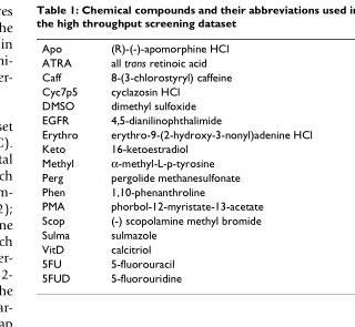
<table><tbody><tr><td>Apo</td><td>(R)-(-)-apomorphine HCl</td></tr><tr><td>ATRA</td><td>all trans retinoic acid</td></tr><tr><td>Caff</td><td>8-(3-chlorostyryl) caffeine</td></tr><tr><td>Cyc7p5</td><td>cyclazosin HCl</td></tr><tr><td>DMSO</td><td>dimethyl sulfoxide</td></tr><tr><td>EGFR</td><td>4,5-dianilinophthalimide</td></tr><tr><td>Erythro</td><td>erythro-9-(2-hydroxy-3-nonyl)adenine HCl</td></tr><tr><td>Keto</td><td>16-ketoestradiol</td></tr><tr><td>Methyl</td><td>α-methyl-L-p-tyrosine</td></tr><tr><td>Perg</td><td>pergolide methanesulfonate</td></tr><tr><td>Phen</td><td>1,10-phenanthroline</td></tr><tr><td>PMA</td><td>phorbol-12-myristate-13-acetate</td></tr><tr><td>Scop</td><td>(-) scopolamine methyl bromide</td></tr><tr><td>Sulma</td><td>sulmazole</td></tr><tr><td>VitD</td><td>calcitriol</td></tr><tr><td>5FU</td><td>5-fluorouracil</td></tr><tr><td>5FUD</td><td>5-fluorouridine</td></tr></tbody></table>